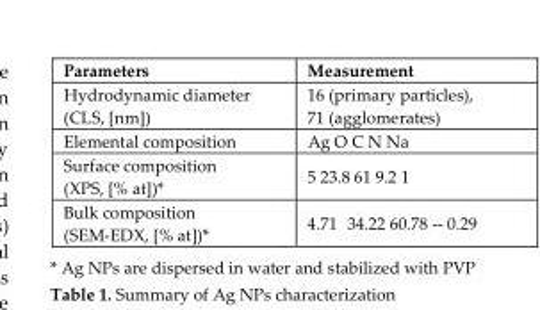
<table><thead><tr><td>Parameters</td><td>Measurement</td></tr></thead><tbody><tr><td>Hydrodynamic diameter (CLS, [nm])</td><td>16 (primary particles), 71 (agglomerates)</td></tr><tr><td>Elemental composition</td><td>Ag O C N Na</td></tr><tr><td>Surface composition (XPS, [% at])*</td><td>5 23.8 61 9.2 1</td></tr><tr><td>Bulk composition (SEM-EDX, [% at])*</td><td>4.71 34.22 60.78 -- 0.29</td></tr></tbody></table>